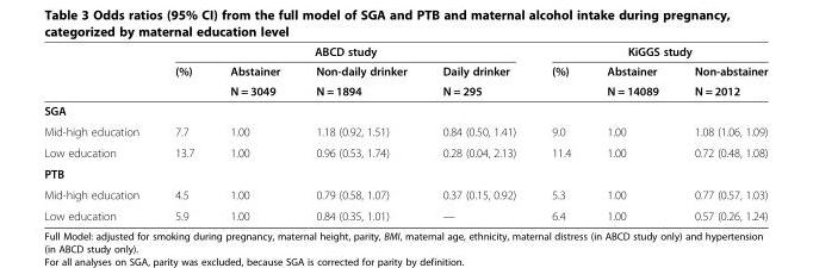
<table><thead><tr><td rowspan="3"></td><td colspan="4">ABCD study</td><td colspan="2">KiGGS study</td><td rowspan="3">Non-abstainer N = 2012</td></tr><tr><td rowspan="2">(%)</td><td rowspan="2">Abstainer N = 3049</td><td rowspan="2">Non-daily drinker N = 1894</td><td rowspan="2">Daily drinker N = 295</td><td rowspan="2">(%)</td><td rowspan="2">Abstainer N = 14089</td></tr><tr></tr></thead><tbody><tr><td colspan="8">SGA</td></tr><tr><td>Mid-high education</td><td>7.7</td><td>1.00</td><td>1.18 (0.92, 1.51)</td><td>0.84 (0.50, 1.41)</td><td>9.0</td><td>1.00</td><td>1.08 (1.06, 1.09)</td></tr><tr><td>Low education</td><td>13.7</td><td>1.00</td><td>0.96 (0.53, 1.74)</td><td>0.28 (0.04, 2.13)</td><td>11.4</td><td>1.00</td><td>0.72 (0.48, 1.08)</td></tr><tr><td colspan="8">PTB</td></tr><tr><td>Mid-high education</td><td>4.5</td><td>1.00</td><td>0.79 (0.58, 1.07)</td><td>0.37 (0.15, 0.92)</td><td>5.3</td><td>1.00</td><td>0.77 (0.57, 1.03)</td></tr><tr><td>Low education</td><td>5.9</td><td>1.00</td><td>0.84 (0.35, 1.01)</td><td>—</td><td>6.4</td><td>1.00</td><td>0.57 (0.26, 1.24)</td></tr></tbody></table>